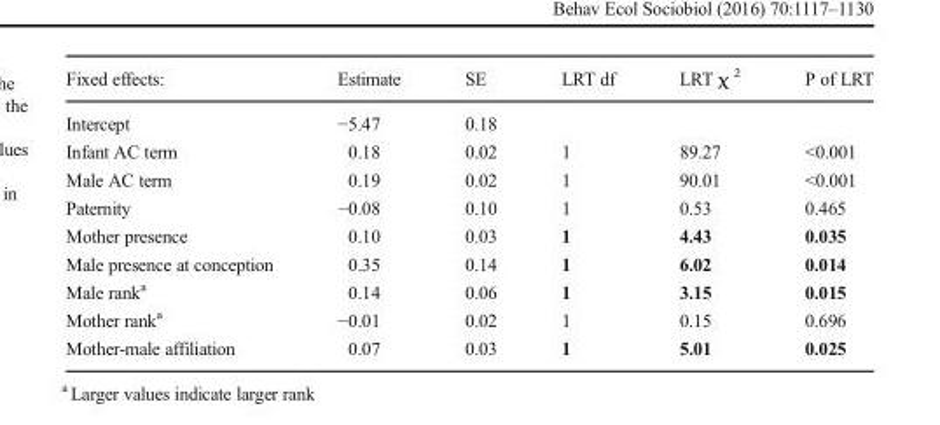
<table><thead><tr><td>Fixed effects:</td><td>Estimate</td><td>SE</td><td>LRT df</td><td>LRT χ <sup>2</sup></td><td>P of LRT</td></tr></thead><tbody><tr><td>Intercept</td><td>−5.47</td><td>0.18</td><td></td><td></td><td></td></tr><tr><td>Infant AC term</td><td>0.18</td><td>0.02</td><td>1</td><td>89.27</td><td>&lt;0.001</td></tr><tr><td>Male AC term</td><td>0.19</td><td>0.02</td><td>1</td><td>90.01</td><td>&lt;0.001</td></tr><tr><td>Paternity</td><td>−0.08</td><td>0.10</td><td>1</td><td>0.53</td><td>0.465</td></tr><tr><td>Mother presence</td><td>0.10</td><td>0.03</td><td>1</td><td>4.43</td><td>0.035</td></tr><tr><td>Male presence at conception</td><td>0.35</td><td>0.14</td><td>1</td><td>6.02</td><td>0.014</td></tr><tr><td>Male rank<sup>a</sup></td><td>0.14</td><td>0.06</td><td>1</td><td>3.15</td><td>0.015</td></tr><tr><td>Mother rank<sup>a</sup></td><td>−0.01</td><td>0.02</td><td>1</td><td>0.15</td><td>0.696</td></tr><tr><td>Mother-male affiliation</td><td>0.07</td><td>0.03</td><td>1</td><td>5.01</td><td>0.025</td></tr></tbody></table>